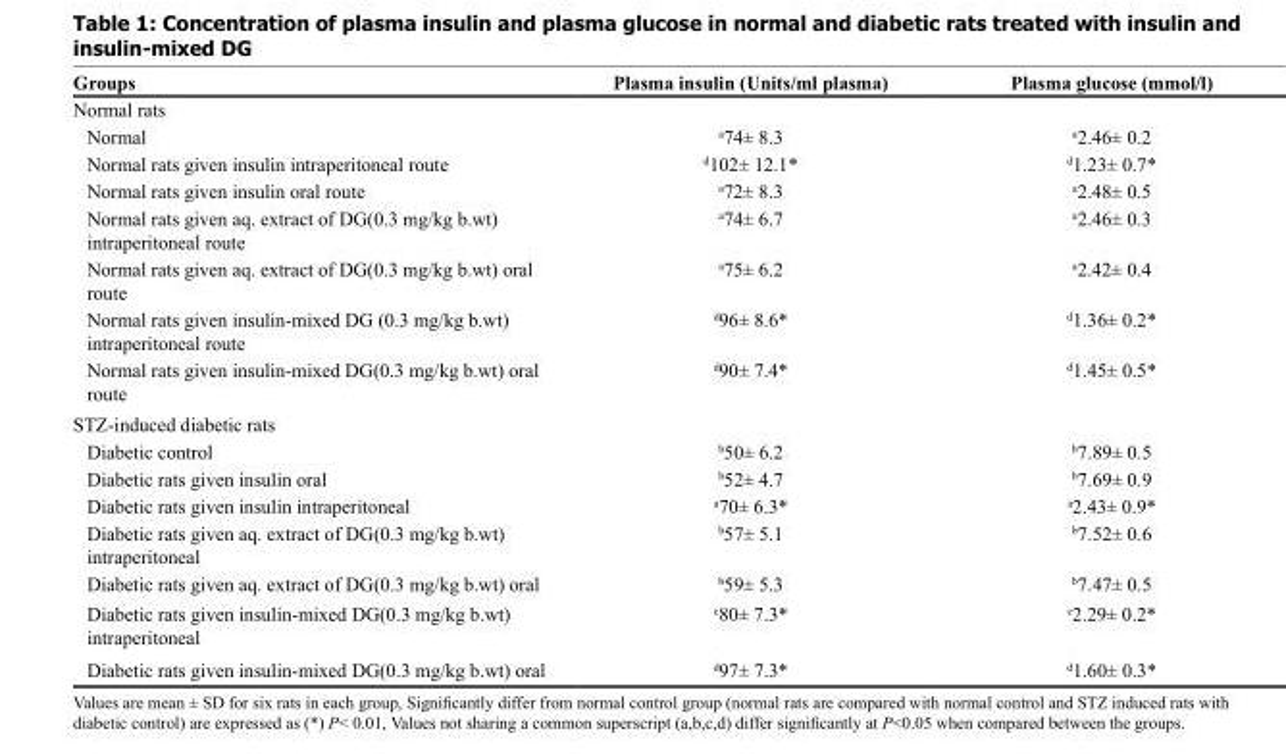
<table><thead><tr><td>Groups</td><td>Plasma insulin (Units/ml plasma)</td><td>Plasma glucose (mmol/l)</td></tr></thead><tbody><tr><td colspan="3">Normal rats</td></tr><tr><td>Normal</td><td><sup>a</sup>74± 8.3</td><td><sup>a</sup>2.46± 0.2</td></tr><tr><td>Normal rats given insulin intraperitoneal route</td><td><sup>d</sup>102± 12.1*</td><td><sup>d</sup>1.23± 0.7*</td></tr><tr><td>Normal rats given insulin oral route</td><td><sup>a</sup>72± 8.3</td><td><sup>a</sup>2.48± 0.5</td></tr><tr><td>Normal rats given aq. extract of DG(0.3 mg/kg b.wt) intraperitoneal route</td><td><sup>a</sup>74± 6.7</td><td><sup>a</sup>2.46± 0.3</td></tr><tr><td>Normal rats given aq. extract of DG(0.3 mg/kg b.wt) oral route</td><td><sup>a</sup>75± 6.2</td><td><sup>a</sup>2.42± 0.4</td></tr><tr><td>Normal rats given insulin-mixed DG (0.3 mg/kg b.wt) intraperitoneal route</td><td><sup>d</sup>96± 8.6*</td><td><sup>d</sup>1.36± 0.2*</td></tr><tr><td>Normal rats given insulin-mixed DG(0.3 mg/kg b.wt) oral route</td><td><sup>d</sup>90± 7.4*</td><td><sup>d</sup>1.45± 0.5*</td></tr><tr><td colspan="3">STZ-induced diabetic rats</td></tr><tr><td>Diabetic control</td><td><sup>b</sup>50± 6.2</td><td><sup>b</sup>7.89± 0.5</td></tr><tr><td>Diabetic rats given insulin oral</td><td><sup>b</sup>52± 4.7</td><td><sup>b</sup>7.69± 0.9</td></tr><tr><td>Diabetic rats given insulin intraperitoneal</td><td><sup>a</sup>70± 6.3*</td><td><sup>a</sup>2.43± 0.9*</td></tr><tr><td>Diabetic rats given aq. extract of DG(0.3 mg/kg b.wt) intraperitoneal</td><td><sup>b</sup>57± 5.1</td><td><sup>b</sup>7.52± 0.6</td></tr><tr><td>Diabetic rats given aq. extract of DG(0.3 mg/kg b.wt) oral</td><td>b59± 5.3</td><td>b7.47± 0.5</td></tr><tr><td>Diabetic rats given insulin-mixed DG(0.3 mg/kg b.wt) intraperitoneal</td><td><sup>c</sup>80± 7.3*</td><td><sup>c</sup>2.29± 0.2*</td></tr><tr><td>Diabetic rats given insulin-mixed DG(0.3 mg/kg b.wt) oral</td><td><sup>d</sup>97± 7.3*</td><td><sup>d</sup>1.60± 0.3*</td></tr></tbody></table>